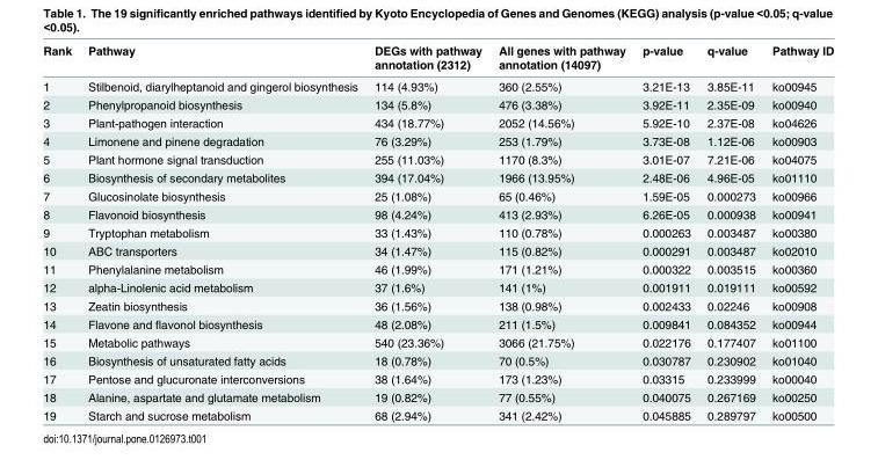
<table><thead><tr><td>Rank</td><td>Pathway</td><td>DEGs with pathway annotation (2312)</td><td>All genes with pathway annotation (14097)</td><td>p-value</td><td>q-value</td><td>Pathway ID</td></tr></thead><tbody><tr><td>1</td><td>Stilbenoid, diarylheptanoid and gingerol biosynthesis</td><td>114 (4.93%)</td><td>360 (2.55%)</td><td>3.21E-13</td><td>3.85E-11</td><td>ko00945</td></tr><tr><td>2</td><td>Phenylpropanoid biosynthesis</td><td>134 (5.8%)</td><td>476 (3.38%)</td><td>3.92E-11</td><td>2.35E-09</td><td>ko00940</td></tr><tr><td>3</td><td>Plant-pathogen interaction</td><td>434 (18.77%)</td><td>2052 (14.56%)</td><td>5.92E-10</td><td>2.37E-08</td><td>ko04626</td></tr><tr><td>4</td><td>Limonene and pinene degradation</td><td>76 (3.29%)</td><td>253 (1.79%)</td><td>3.73E-08</td><td>1.12E-06</td><td>ko00903</td></tr><tr><td>5</td><td>Plant hormone signal transduction</td><td>255 (11.03%)</td><td>1170 (8.3%)</td><td>3.01E-07</td><td>7.21E-06</td><td>ko04075</td></tr><tr><td>6</td><td>Biosynthesis of secondary metabolites</td><td>394 (17.04%)</td><td>1966 (13.95%)</td><td>2.48E-06</td><td>4.96E-05</td><td>ko01110</td></tr><tr><td>7</td><td>Glucosinolate biosynthesis</td><td>25 (1.08%)</td><td>65 (0.46%)</td><td>1.59E-05</td><td>0.000273</td><td>ko00966</td></tr><tr><td>8</td><td>Flavonoid biosynthesis</td><td>98 (4.24%)</td><td>413 (2.93%)</td><td>6.26E-05</td><td>0.000938</td><td>ko00941</td></tr><tr><td>9</td><td>Tryptophan metabolism</td><td>33 (1.43%)</td><td>110 (0.78%)</td><td>0.000263</td><td>0.003487</td><td>ko00380</td></tr><tr><td>10</td><td>ABC transporters</td><td>34 (1.47%)</td><td>115 (0.82%)</td><td>0.000291</td><td>0.003487</td><td>ko02010</td></tr><tr><td>11</td><td>Phenylalanine metabolism</td><td>46 (1.99%)</td><td>171 (1.21%)</td><td>0.000322</td><td>0.003515</td><td>ko00360</td></tr><tr><td>12</td><td>alpha-Linolenic acid metabolism</td><td>37 (1.6%)</td><td>141 (1%)</td><td>0.001911</td><td>0.019111</td><td>ko00592</td></tr><tr><td>13</td><td>Zeatin biosynthesis</td><td>36 (1.56%)</td><td>138 (0.98%)</td><td>0.002433</td><td>0.02246</td><td>ko00908</td></tr><tr><td>14</td><td>Flavone and flavonol biosynthesis</td><td>48 (2.08%)</td><td>211 (1.5%)</td><td>0.009841</td><td>0.084352</td><td>ko00944</td></tr><tr><td>15</td><td>Metabolic pathways</td><td>540 (23.36%)</td><td>3066 (21.75%)</td><td>0.022176</td><td>0.177407</td><td>ko01100</td></tr><tr><td>16</td><td>Biosynthesis of unsaturated fatty acids</td><td>18 (0.78%)</td><td>70 (0.5%)</td><td>0.030787</td><td>0.230902</td><td>ko01040</td></tr><tr><td>17</td><td>Pentose and glucuronate interconversions</td><td>38 (1.64%)</td><td>173 (1.23%)</td><td>0.03315</td><td>0.233999</td><td>ko00040</td></tr><tr><td>18</td><td>Alanine, aspartate and glutamate metabolism</td><td>19 (0.82%)</td><td>77 (0.55%)</td><td>0.040075</td><td>0.267169</td><td>ko00250</td></tr><tr><td>19</td><td>Starch and sucrose metabolism</td><td>68 (2.94%)</td><td>341 (2.42%)</td><td>0.045885</td><td>0.289797</td><td>ko00500</td></tr></tbody></table>